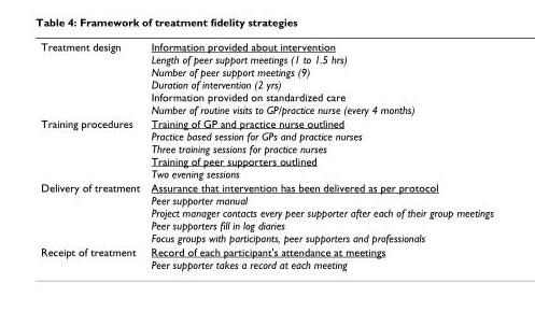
<table><tbody><tr><td>Treatment design</td><td>Information provided about intervention Length of peer support meetings (1 to 1.5 hrs) Number of peer support meetings (9) Duration of intervention (2 yrs) Information provided on standardized care Number of routine visits to GP/practice nurse (every 4 months)</td></tr><tr><td>Training procedures</td><td>Training of GP and practice nurse outlined Practice based session for GPs and practice nurses Three training sessions for practice nurses Training of peer supporters outlined Two evening sessions</td></tr><tr><td>Delivery of treatment</td><td>Assurance that intervention has been delivered as per protocol Peer supporter manual Project manager contacts every peer supporter after each of their group meetings Peer supporters fill in log diaries Focus groups with participants, peer supporters and professionals</td></tr><tr><td>Receipt of treatment</td><td>Record of each participant&#x27;s attendance at meetings Peer supporter takes a record at each meeting</td></tr></tbody></table>